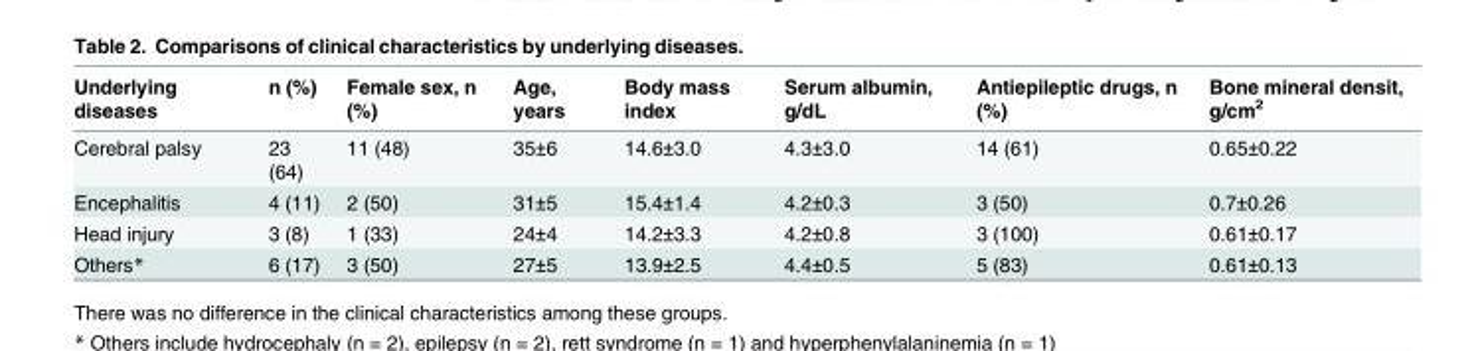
<table><thead><tr><td>Underlying diseases</td><td>n (%)</td><td>Female sex, n (%)</td><td>Age, years</td><td>Body mass index</td><td>Serum albumin, g/dL</td><td>Antiepileptic drugs, n (%)</td><td>Bone mineral densit, g/cm<sup>2</sup></td></tr></thead><tbody><tr><td>Cerebral palsy</td><td>23 (64)</td><td>11 (48)</td><td>35±6</td><td>14.6±3.0</td><td>4.3±3.0</td><td>14 (61)</td><td>0.65±0.22</td></tr><tr><td>Encephalitis</td><td>4 (11)</td><td>2 (50)</td><td>31±5</td><td>15.4±1.4</td><td>4.2±0.3</td><td>3 (50)</td><td>0.7±0.26</td></tr><tr><td>Head injury</td><td>3 (8)</td><td>1 (33)</td><td>24±4</td><td>14.2±3.3</td><td>4.2±0.8</td><td>3 (100)</td><td>0.61±0.17</td></tr><tr><td>Others*</td><td>6 (17)</td><td>3 (50)</td><td>27±5</td><td>13.9±2.5</td><td>4.4±0.5</td><td>5 (83)</td><td>0.61±0.13</td></tr></tbody></table>